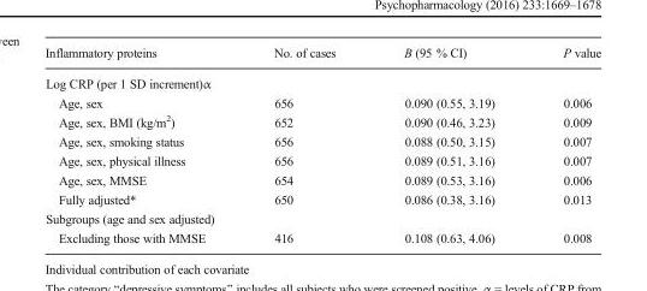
<table><thead><tr><td>Inflammatory proteins</td><td>No. of cases</td><td>B (95 % CI)</td><td>P value</td></tr></thead><tbody><tr><td colspan="4">Log CRP (per 1 SD increment)α</td></tr><tr><td>Age, sex</td><td>656</td><td>0.090 (0.55, 3.19)</td><td>0.006</td></tr><tr><td>Age, sex, BMI (kg/m<sup>2</sup>)</td><td>652</td><td>0.090 (0.46, 3.23)</td><td>0.009</td></tr><tr><td>Age, sex, smoking status</td><td>656</td><td>0.088 (0.50, 3.15)</td><td>0.007</td></tr><tr><td>Age, sex, physical illness</td><td>656</td><td>0.089 (0.51, 3.16)</td><td>0.007</td></tr><tr><td>Age, sex, MMSE</td><td>654</td><td>0.089 (0.53, 3.16)</td><td>0.006</td></tr><tr><td>Fully adjusted*</td><td>650</td><td>0.086 (0.38, 3.16)</td><td>0.013</td></tr><tr><td colspan="4">Subgroups (age and sex adjusted)</td></tr><tr><td>Excluding those with MMSE</td><td>416</td><td>0.108 (0.63, 4.06)</td><td>0.008</td></tr></tbody></table>